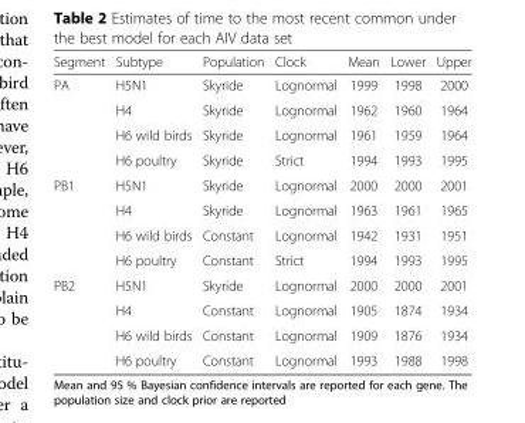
<table><thead><tr><td>Segment</td><td>Subtype</td><td>Population</td><td>Clock</td><td>Mean</td><td>Lower</td><td>Upper</td></tr></thead><tbody><tr><td rowspan="4">PA</td><td>H5N1</td><td>Skyride</td><td>Lognormal</td><td>1999</td><td>1998</td><td>2000</td></tr><tr><td>H4</td><td>Skyride</td><td>Lognormal</td><td>1962</td><td>1960</td><td>1964</td></tr><tr><td>H6 wild birds</td><td>Skyride</td><td>Lognormal</td><td>1961</td><td>1959</td><td>1964</td></tr><tr><td>H6 poultry</td><td>Skyride</td><td>Strict</td><td>1994</td><td>1993</td><td>1995</td></tr><tr><td rowspan="4">PB1</td><td>H5N1</td><td>Skyride</td><td>Lognormal</td><td>2000</td><td>2000</td><td>2001</td></tr><tr><td>H4</td><td>Skyride</td><td>Lognormal</td><td>1963</td><td>1961</td><td>1965</td></tr><tr><td>H6 wild birds</td><td>Constant</td><td>Lognormal</td><td>1942</td><td>1931</td><td>1951</td></tr><tr><td>H6 poultry</td><td>Constant</td><td>Strict</td><td>1994</td><td>1993</td><td>1995</td></tr><tr><td rowspan="4">PB2</td><td>H5N1</td><td>Skyride</td><td>Lognormal</td><td>2000</td><td>2000</td><td>2001</td></tr><tr><td>H4</td><td>Constant</td><td>Lognormal</td><td>1905</td><td>1874</td><td>1934</td></tr><tr><td>H6 wild birds</td><td>Constant</td><td>Lognormal</td><td>1909</td><td>1876</td><td>1934</td></tr><tr><td>H6 poultry</td><td>Constant</td><td>Lognormal</td><td>1993</td><td>1988</td><td>1998</td></tr></tbody></table>